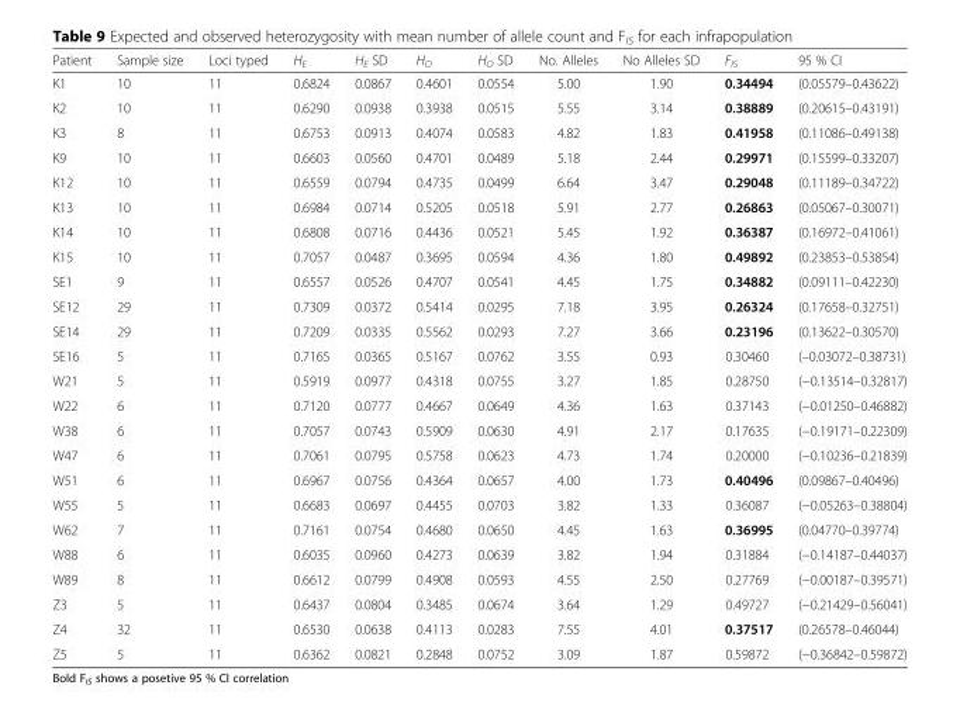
<table><thead><tr><td>Patient</td><td>Sample size</td><td>Loci typed</td><td>H<sub>E</sub></td><td>H<sub>E</sub> SD</td><td>H<sub>O</sub></td><td>H<sub>O</sub> SD</td><td>No. Alleles</td><td>No Alleles SD</td><td>F<sub>IS</sub></td><td>95 % CI</td></tr></thead><tbody><tr><td>K1</td><td>10</td><td>11</td><td>0.6824</td><td>0.0867</td><td>0.4601</td><td>0.0554</td><td>5.00</td><td>1.90</td><td>0.34494</td><td>(0.05579–0.43622)</td></tr><tr><td>K2</td><td>10</td><td>11</td><td>0.6290</td><td>0.0938</td><td>0.3938</td><td>0.0515</td><td>5.55</td><td>3.14</td><td>0.38889</td><td>(0.20615–0.43191)</td></tr><tr><td>K3</td><td>8</td><td>11</td><td>0.6753</td><td>0.0913</td><td>0.4074</td><td>0.0583</td><td>4.82</td><td>1.83</td><td>0.41958</td><td>(0.11086–0.49138)</td></tr><tr><td>K9</td><td>10</td><td>11</td><td>0.6603</td><td>0.0560</td><td>0.4701</td><td>0.0489</td><td>5.18</td><td>2.44</td><td>0.29971</td><td>(0.15599–0.33207)</td></tr><tr><td>K12</td><td>10</td><td>11</td><td>0.6559</td><td>0.0794</td><td>0.4735</td><td>0.0499</td><td>6.64</td><td>3.47</td><td>0.29048</td><td>(0.11189–0.34722)</td></tr><tr><td>K13</td><td>10</td><td>11</td><td>0.6984</td><td>0.0714</td><td>0.5205</td><td>0.0518</td><td>5.91</td><td>2.77</td><td>0.26863</td><td>(0.05067–0.30071)</td></tr><tr><td>K14</td><td>10</td><td>11</td><td>0.6808</td><td>0.0716</td><td>0.4436</td><td>0.0521</td><td>5.45</td><td>1.92</td><td>0.36387</td><td>(0.16972–0.41061)</td></tr><tr><td>K15</td><td>10</td><td>11</td><td>0.7057</td><td>0.0487</td><td>0.3695</td><td>0.0594</td><td>4.36</td><td>1.80</td><td>0.49892</td><td>(0.23853–0.53854)</td></tr><tr><td>SE1</td><td>9</td><td>11</td><td>0.6557</td><td>0.0526</td><td>0.4707</td><td>0.0541</td><td>4.45</td><td>1.75</td><td>0.34882</td><td>(0.09111–0.42230)</td></tr><tr><td>SE12</td><td>29</td><td>11</td><td>0.7309</td><td>0.0372</td><td>0.5414</td><td>0.0295</td><td>7.18</td><td>3.95</td><td>0.26324</td><td>(0.17658–0.32751)</td></tr><tr><td>SE14</td><td>29</td><td>11</td><td>0.7209</td><td>0.0335</td><td>0.5562</td><td>0.0293</td><td>7.27</td><td>3.66</td><td>0.23196</td><td>(0.13622–0.30570)</td></tr><tr><td>SE16</td><td>5</td><td>11</td><td>0.7165</td><td>0.0365</td><td>0.5167</td><td>0.0762</td><td>3.55</td><td>0.93</td><td>0.30460</td><td>(–0.03072–0.38731)</td></tr><tr><td>W21</td><td>5</td><td>11</td><td>0.5919</td><td>0.0977</td><td>0.4318</td><td>0.0755</td><td>3.27</td><td>1.85</td><td>0.28750</td><td>(−0.13514–0.32817)</td></tr><tr><td>W22</td><td>6</td><td>11</td><td>0.7120</td><td>0.0777</td><td>0.4667</td><td>0.0649</td><td>4.36</td><td>1.63</td><td>0.37143</td><td>(−0.01250–0.46882)</td></tr><tr><td>W38</td><td>6</td><td>11</td><td>0.7057</td><td>0.0743</td><td>0.5909</td><td>0.0630</td><td>4.91</td><td>2.17</td><td>0.17635</td><td>(−0.19171–0.22309)</td></tr><tr><td>W47</td><td>6</td><td>11</td><td>0.7061</td><td>0.0795</td><td>0.5758</td><td>0.0623</td><td>4.73</td><td>1.74</td><td>0.20000</td><td>(−0.10236–0.21839)</td></tr><tr><td>W51</td><td>6</td><td>11</td><td>0.6967</td><td>0.0756</td><td>0.4364</td><td>0.0657</td><td>4.00</td><td>1.73</td><td>0.40496</td><td>(0.09867–0.40496)</td></tr><tr><td>W55</td><td>5</td><td>11</td><td>0.6683</td><td>0.0697</td><td>0.4455</td><td>0.0703</td><td>3.82</td><td>1.33</td><td>0.36087</td><td>(−0.05263–0.38804)</td></tr><tr><td>W62</td><td>7</td><td>11</td><td>0.7161</td><td>0.0754</td><td>0.4680</td><td>0.0650</td><td>4.45</td><td>1.63</td><td>0.36995</td><td>(0.04770–0.39774)</td></tr><tr><td>W88</td><td>6</td><td>11</td><td>0.6035</td><td>0.0960</td><td>0.4273</td><td>0.0639</td><td>3.82</td><td>1.94</td><td>0.31884</td><td>(−0.14187–0.44037)</td></tr><tr><td>W89</td><td>8</td><td>11</td><td>0.6612</td><td>0.0799</td><td>0.4908</td><td>0.0593</td><td>4.55</td><td>2.50</td><td>0.27769</td><td>(−0.00187–0.39571)</td></tr><tr><td>Z3</td><td>5</td><td>11</td><td>0.6437</td><td>0.0804</td><td>0.3485</td><td>0.0674</td><td>3.64</td><td>1.29</td><td>0.49727</td><td>(−0.21429–0.56041)</td></tr><tr><td>Z4</td><td>32</td><td>11</td><td>0.6530</td><td>0.0638</td><td>0.4113</td><td>0.0283</td><td>7.55</td><td>4.01</td><td>0.37517</td><td>(0.26578–0.46044)</td></tr><tr><td>Z5</td><td>5</td><td>11</td><td>0.6362</td><td>0.0821</td><td>0.2848</td><td>0.0752</td><td>3.09</td><td>1.87</td><td>0.59872</td><td>(−0.36842–0.59872)</td></tr></tbody></table>